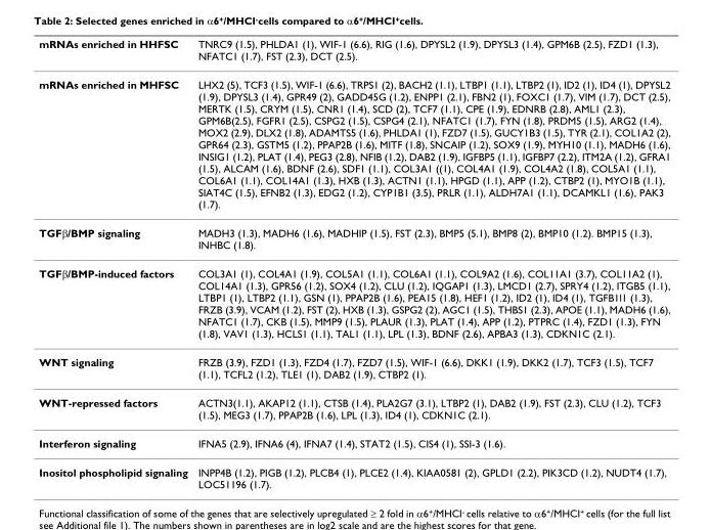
<table><tbody><tr><td>mRNAs enriched in HHFSC</td><td>TNRC9 (1.5), PHLDA1 (1), WIF-1 (6.6), RIG (1.6), DPYSL2 (1.9), DPYSL3 (1.4), GPM6B (2.5), FZD1 (1.3), NFATC1 (1.7), FST (2.3), DCT (2.5).</td></tr><tr><td>mRNAs enriched in MHFSC</td><td>LHX2 (5), TCF3 (1.5), WIF-1 (6.6), TRPS1 (2), BACH2 (1.1), LTBP1 (1.1), LTBP2 (1), ID2 (1), ID4 (1), DPYSL2 (1.9), DPYSL3 (1.4), GPR49 (2), GADD45G (1.2), ENPP1 (2.1), FBN2 (1), FOXC1 (1.7), VIM (1.7), DCT (2.5), MERTK (1.5), CRYM (1.5), CNR1 (1.4), SCD (2), TCF7 (1.1), CPE (1.9), EDNRB (2.8), AML1 (2.3), GPM6B(2.5), FGFR1 (2.5), CSPG2 (1.5), CSPG4 (2.1), NFATC1 (1.7), FYN (1.8), PRDM5 (1.5), ARG2 (1.4), MOX2 (2.9), DLX2 (1.8), ADAMTS5 (1.6), PHLDA1 (1), FZD7 (1.5), GUCY1B3 (1.5), TYR (2.1), COL1A2 (2), GPR64 (2.3), GSTM5 (1.2), PPAP2B (1.6), MITF (1.8), SNCAIP (1.2), SOX9 (1.9), MYH10 (1.1), MADH6 (1.6), INSIG1 (1.2), PLAT (1.4), PEG3 (2.8), NFIB (1.2), DAB2 (1.9), IGFBP5 (1.1), IGFBP7 (2.2), ITM2A (1.2), GFRA1 (1.5), ALCAM (1.6), BDNF (2.6), SDF1 (1.1), COL3A1 ((1), COL4A1 (1.9), COL4A2 (1.8), COL5A1 (1.1), COL6A1 (1.1), COL14A1 (1.3), HXB (1.3), ACTN1 (1.1), HPGD (1.1), APP (1.2), CTBP2 (1), MYO1B (1.1), SIAT4C (1.5), EFNB2 (1.3), EDG2 (1.2), CYP1B1 (3.5), PRLR (1.1), ALDH7A1 (1.1), DCAMKL1 (1.6), PAK3 (1.7).</td></tr><tr><td>TGFβ/BMP signaling</td><td>MADH3 (1.3), MADH6 (1.6), MADHIP (1.5), FST (2.3), BMP5 (5.1), BMP8 (2), BMP10 (1.2). BMP15 (1.3), INHBC (1.8).</td></tr><tr><td>TGFβ/BMP-induced factors</td><td>COL3A1 (1), COL4A1 (1.9), COL5A1 (1.1), COL6A1 (1.1), COL9A2 (1.6), COL11A1 (3.7), COL11A2 (1), COL14A1 (1.3), GPR56 (1.2), SOX4 (1.2), CLU (1.2), IQGAP1 (1.3), LMCD1 (2.7), SPRY4 (1.2), ITGB5 (1.1), LTBP1 (1), LTBP2 (1.1), GSN (1), PPAP2B (1.6), PEA15 (1.8), HEF1 (1.2), ID2 (1), ID4 (1), TGFB1l1 (1.3), FRZB (3.9), VCAM (1.2), FST (2), HXB (1.3), GSPG2 (2), AGC1 (1.5), THBS1 (2.3), APOE (1.1), MADH6 (1.6), NFATC1 (1.7), CKB (1.5), MMP9 (1.5), PLAUR (1.3), PLAT (1.4), APP (1.2), PTPRC (1.4), FZD1 (1.3), FYN (1.8), VAV1 (1.3), HCLS1 (1.1), TAL1 (1.1), LPL (1.3), BDNF (2.6), APBA3 (1.3), CDKN1C (2.1).</td></tr><tr><td>WNT signaling</td><td>FRZB (3.9), FZD1 (1.3), FZD4 (1.7), FZD7 (1.5), WIF-1 (6.6), DKK1 (1.9), DKK2 (1.7), TCF3 (1.5), TCF7 (1.1), TCFL2 (1.2), TLE1 (1), DAB2 (1.9), CTBP2 (1).</td></tr><tr><td>WNT-repressed factors</td><td>ACTN3(1.1), AKAP12 (1.1), CTSB (1.4), PLA2G7 (3.1), LTBP2 (1), DAB2 (1.9), FST (2.3), CLU (1.2), TCF3 (1.5), MEG3 (1.7), PPAP2B (1.6), LPL (1.3), ID4 (1), CDKN1C (2.1).</td></tr><tr><td>Interferon signaling</td><td>IFNA5 (2.9), IFNA6 (4), IFNA7 (1.4), STAT2 (1.5), CIS4 (1), SSI-3 (1.6).</td></tr><tr><td>Inositol phospholipid signaling</td><td>INPP4B (1.2), PIGB (1.2), PLCB4 (1), PLCE2 (1.4), KIAA0581 (2), GPLD1 (2.2), PIK3CD (1.2), NUDT4 (1.7), LOC51196 (1.7).</td></tr></tbody></table>